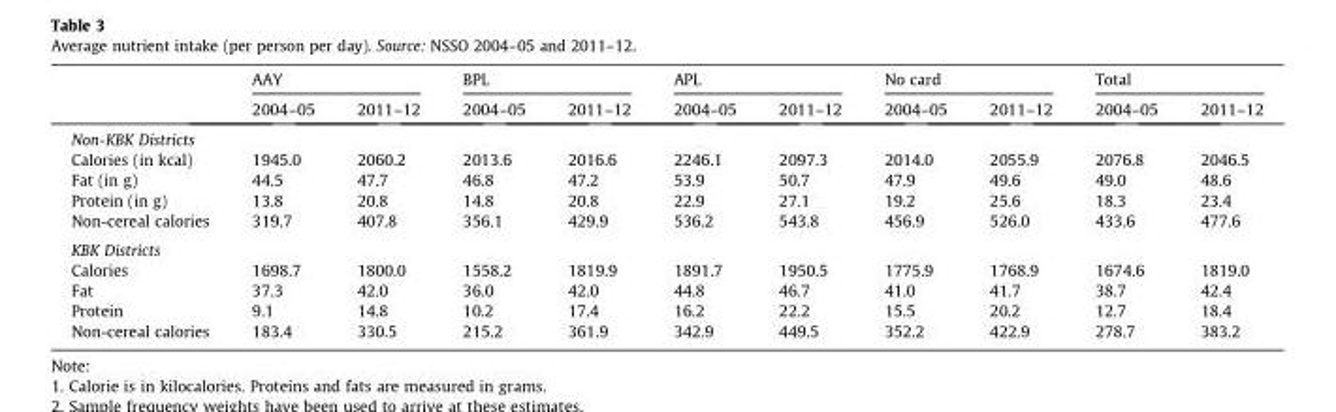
<table><thead><tr><td rowspan="2"></td><td colspan="2">AAY</td><td colspan="2">BPL</td><td colspan="2">APL</td><td colspan="2">No card</td><td colspan="2">Total</td></tr><tr><td>2004–05</td><td>2011–12</td><td>2004–05</td><td>2011–12</td><td>2004–05</td><td>2011–12</td><td>2004–05</td><td>2011–12</td><td>2004–05</td><td>2011–12</td></tr></thead><tbody><tr><td colspan="11">Non-KBK Districts</td></tr><tr><td>Calories (in kcal)</td><td>1945.0</td><td>2060.2</td><td>2013.6</td><td>2016.6</td><td>2246.1</td><td>2097.3</td><td>2014.0</td><td>2055.9</td><td>2076.8</td><td>2046.5</td></tr><tr><td>Fat (in g)</td><td>44.5</td><td>47.7</td><td>46.8</td><td>47.2</td><td>53.9</td><td>50.7</td><td>47.9</td><td>49.6</td><td>49.0</td><td>48.6</td></tr><tr><td>Protein (in g)</td><td>13.8</td><td>20.8</td><td>14.8</td><td>20.8</td><td>22.9</td><td>27.1</td><td>19.2</td><td>25.6</td><td>18.3</td><td>23.4</td></tr><tr><td>Non-cereal calories</td><td>319.7</td><td>407.8</td><td>356.1</td><td>429.9</td><td>536.2</td><td>543.8</td><td>456.9</td><td>526.0</td><td>433.6</td><td>477.6</td></tr><tr><td colspan="11">KBK Districts</td></tr><tr><td>Calories</td><td>1698.7</td><td>1800.0</td><td>1558.2</td><td>1819.9</td><td>1891.7</td><td>1950.5</td><td>1775.9</td><td>1768.9</td><td>1674.6</td><td>1819.0</td></tr><tr><td>Fat</td><td>37.3</td><td>42.0</td><td>36.0</td><td>42.0</td><td>44.8</td><td>46.7</td><td>41.0</td><td>41.7</td><td>38.7</td><td>42.4</td></tr><tr><td>Protein</td><td>9.1</td><td>14.8</td><td>10.2</td><td>17.4</td><td>16.2</td><td>22.2</td><td>15.5</td><td>20.2</td><td>12.7</td><td>18.4</td></tr><tr><td>Non-cereal calories</td><td>183.4</td><td>330.5</td><td>215.2</td><td>361.9</td><td>342.9</td><td>449.5</td><td>352.2</td><td>422.9</td><td>278.7</td><td>383.2</td></tr></tbody></table>